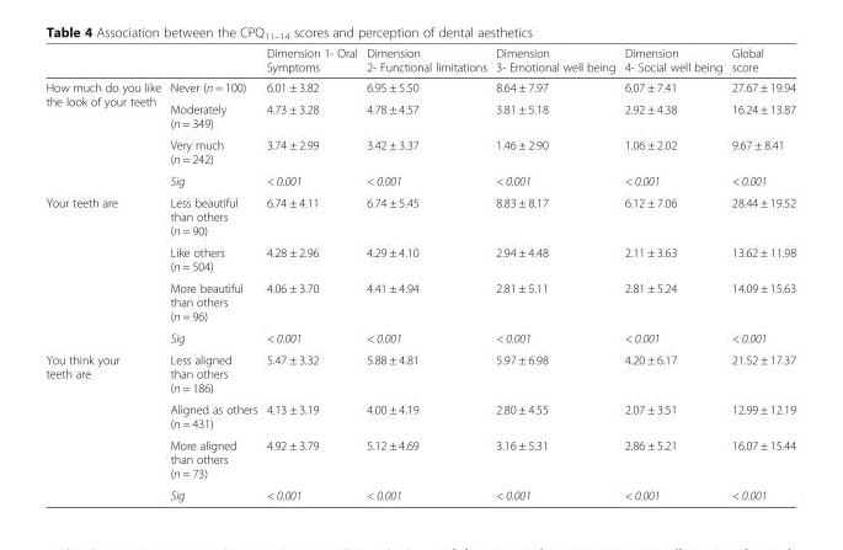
<table><thead><tr><td></td><td></td><td>Dimension 1- Oral Symptoms</td><td>Dimension 2- Functional limitations</td><td>Dimension 3- Emotional well being</td><td>Dimension 4- Social well being</td><td>Global score</td></tr></thead><tbody><tr><td rowspan="4">How much do you like the look of your teeth</td><td>Never (n = 100)</td><td>6.01 ± 3.82</td><td>6.95 ± 5.50</td><td>8.64 ± 7.97</td><td>6.07 ± 7.41</td><td>27.67 ± 19.94</td></tr><tr><td>Moderately (n = 349)</td><td>4.73 ± 3.28</td><td>4.78 ± 4.57</td><td>3.81 ± 5.18</td><td>2.92 ± 4.38</td><td>16.24 ± 13.87</td></tr><tr><td>Very much (n = 242)</td><td>3.74 ± 2.99</td><td>3.42 ± 3.37</td><td>1.46 ± 2.90</td><td>1.06 ± 2.02</td><td>9.67 ± 8.41</td></tr><tr><td>Sig</td><td>&lt; 0.001</td><td>&lt; 0.001</td><td>&lt; 0.001</td><td>&lt; 0.001</td><td>&lt; 0.001</td></tr><tr><td rowspan="4">Your teeth are</td><td>Less beautiful than others (n = 90)</td><td>6.74 ± 4.11</td><td>6.74 ± 5.45</td><td>8.83 ± 8.17</td><td>6.12 ± 7.06</td><td>28.44 ± 19.52</td></tr><tr><td>Like others (n = 504)</td><td>4.28 ± 2.96</td><td>4.29 ± 4.10</td><td>2.94 ± 4.48</td><td>2.11 ± 3.63</td><td>13.62 ± 11.98</td></tr><tr><td>More beautiful than others (n = 96)</td><td>4.06 ± 3.70</td><td>4.41 ± 4.94</td><td>2.81 ± 5.11</td><td>2.81 ± 5.24</td><td>14.09 ± 15.63</td></tr><tr><td>Sig</td><td>&lt; 0.001</td><td>&lt; 0.001</td><td>&lt; 0.001</td><td>&lt; 0.001</td><td>&lt; 0.001</td></tr><tr><td rowspan="4">You think your teeth are</td><td>Less aligned than others (n = 186)</td><td>5.47 ± 3.32</td><td>5.88 ± 4.81</td><td>5.97 ± 6.98</td><td>4.20 ± 6.17</td><td>21.52 ± 17.37</td></tr><tr><td>Aligned as others (n = 431)</td><td>4.13 ± 3.19</td><td>4.00 ± 4.19</td><td>2.80 ± 4.55</td><td>2.07 ± 3.51</td><td>12.99 ± 12.19</td></tr><tr><td>More aligned than others (n = 73)</td><td>4.92 ± 3.79</td><td>5.12 ± 4.69</td><td>3.16 ± 5.31</td><td>2.86 ± 5.21</td><td>16.07 ± 15.44</td></tr><tr><td>Sig</td><td>&lt; 0.001</td><td>&lt; 0.001</td><td>&lt; 0.001</td><td>&lt; 0.001</td><td>&lt; 0.001</td></tr></tbody></table>